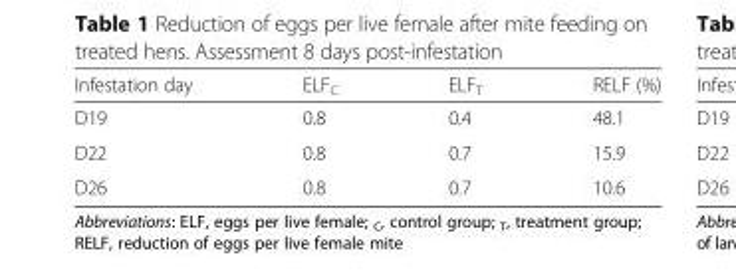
<table><thead><tr><td>Infestation day</td><td>ELF<sub>C</sub></td><td>ELF<sub>T</sub></td><td>RELF (%)</td></tr></thead><tbody><tr><td>D19</td><td>0.8</td><td>0.4</td><td>48.1</td></tr><tr><td>D22</td><td>0.8</td><td>0.7</td><td>15.9</td></tr><tr><td>D26</td><td>0.8</td><td>0.7</td><td>10.6</td></tr></tbody></table>